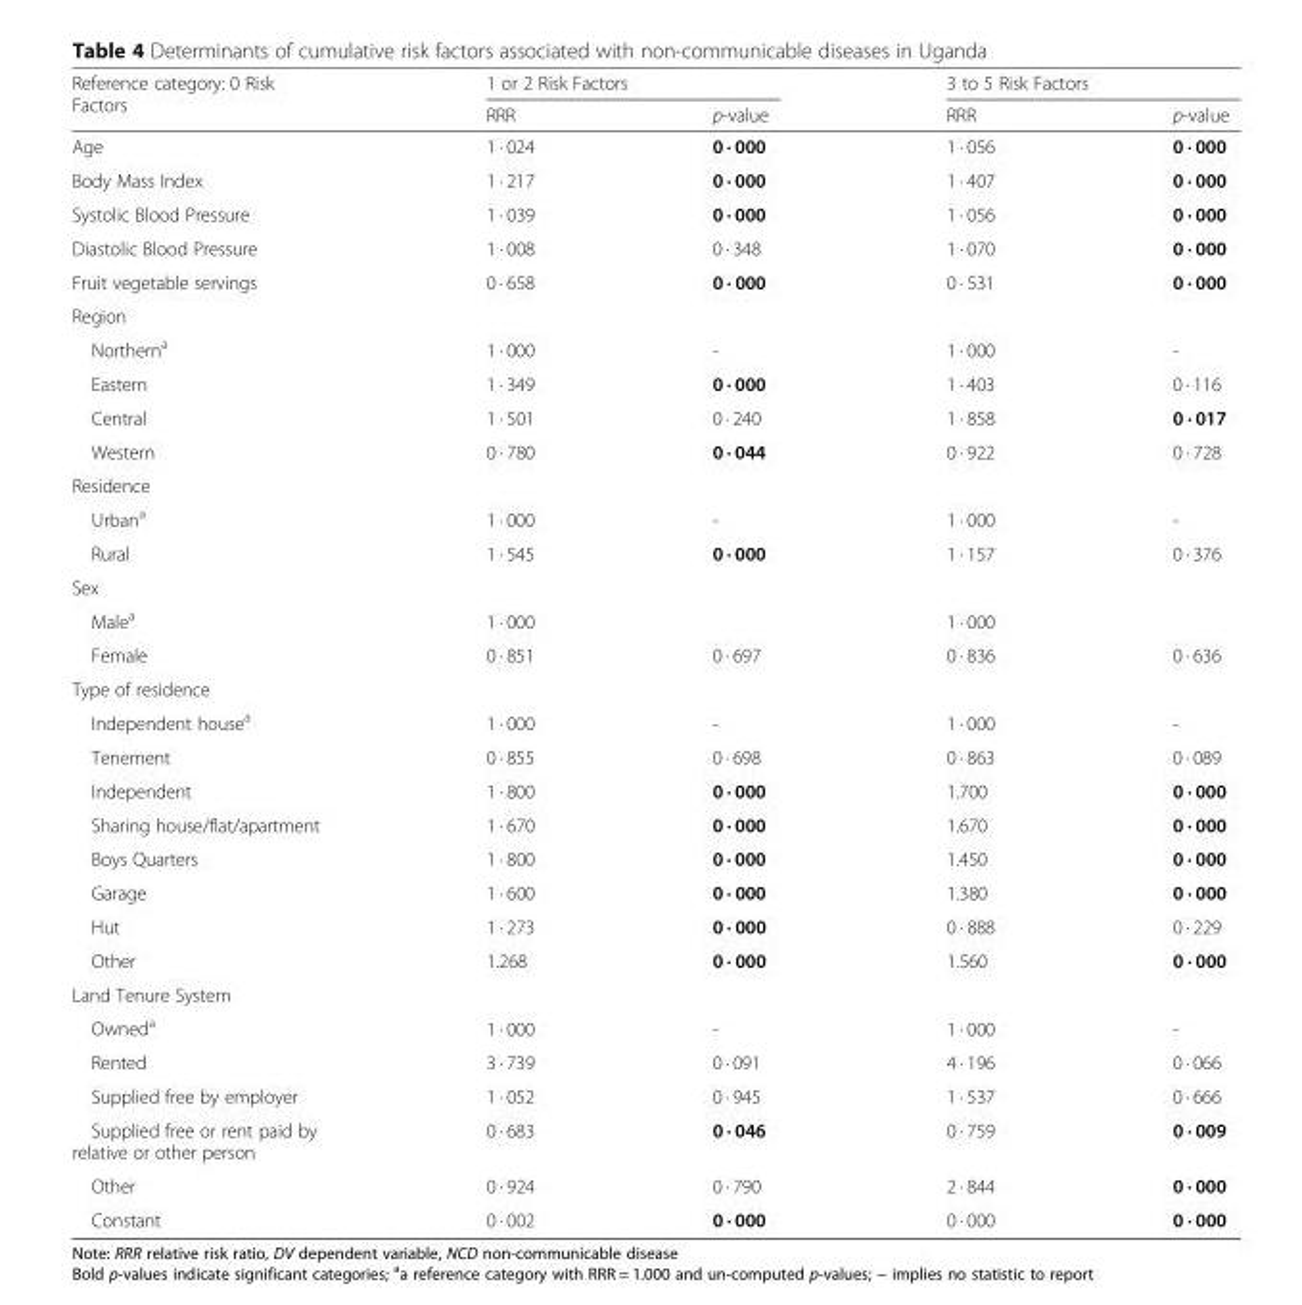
<table><thead><tr><td rowspan="2">Reference category: 0 Risk Factors</td><td colspan="2">1 or 2 Risk Factors</td><td colspan="2">3 to 5 Risk Factors</td></tr><tr><td>RRR</td><td>p-value</td><td>RRR</td><td>p-value</td></tr></thead><tbody><tr><td>Age</td><td>1 · 024</td><td>0 · 000</td><td>1 · 056</td><td>0 · 000</td></tr><tr><td>Body Mass Index</td><td>1 · 217</td><td>0 · 000</td><td>1 · 407</td><td>0 · 000</td></tr><tr><td>Systolic Blood Pressure</td><td>1 · 039</td><td>0 · 000</td><td>1 · 056</td><td>0 · 000</td></tr><tr><td>Diastolic Blood Pressure</td><td>1 · 008</td><td>0 · 348</td><td>1 · 070</td><td>0 · 000</td></tr><tr><td>Fruit vegetable servings</td><td>0 · 658</td><td>0 · 000</td><td>0 · 531</td><td>0 · 000</td></tr><tr><td colspan="5">Region</td></tr><tr><td>Northern<sup>a</sup></td><td>1 · 000</td><td>-</td><td>1 · 000</td><td>-</td></tr><tr><td>Eastern</td><td>1 · 349</td><td>0 · 000</td><td>1 · 403</td><td>0 · 116</td></tr><tr><td>Central</td><td>1 · 501</td><td>0 · 240</td><td>1 · 858</td><td>0 · 017</td></tr><tr><td>Western</td><td>0 · 780</td><td>0 · 044</td><td>0 · 922</td><td>0 · 728</td></tr><tr><td colspan="5">Residence</td></tr><tr><td>Urban<sup>a</sup></td><td>1 · 000</td><td>-</td><td>1 · 000</td><td>-</td></tr><tr><td>Rural</td><td>1 · 545</td><td>0 · 000</td><td>1 · 157</td><td>0 · 376</td></tr><tr><td colspan="5">Sex</td></tr><tr><td>Male<sup>a</sup></td><td>1 · 000</td><td></td><td>1 · 000</td><td></td></tr><tr><td>Female</td><td>0 · 851</td><td>0 · 697</td><td>0 · 836</td><td>0 · 636</td></tr><tr><td colspan="5">Type of residence</td></tr><tr><td>Independent house<sup>a</sup></td><td>1 · 000</td><td>-</td><td>1 · 000</td><td>-</td></tr><tr><td>Tenement</td><td>0 · 855</td><td>0 · 698</td><td>0 · 863</td><td>0 · 089</td></tr><tr><td>Independent</td><td>1 · 800</td><td>0 · 000</td><td>1.700</td><td>0 · 000</td></tr><tr><td>Sharing house/flat/apartment</td><td>1 · 670</td><td>0 · 000</td><td>1.670</td><td>0 · 000</td></tr><tr><td>Boys Quarters</td><td>1 · 800</td><td>0 · 000</td><td>1.450</td><td>0 · 000</td></tr><tr><td>Garage</td><td>1 · 600</td><td>0 · 000</td><td>1.380</td><td>0 · 000</td></tr><tr><td>Hut</td><td>1 · 273</td><td>0 · 000</td><td>0 · 888</td><td>0 · 229</td></tr><tr><td>Other</td><td>1.268</td><td>0 · 000</td><td>1.560</td><td>0 · 000</td></tr><tr><td colspan="5">Land Tenure System</td></tr><tr><td>Owned<sup>a</sup></td><td>1 · 000</td><td>-</td><td>1 · 000</td><td>-</td></tr><tr><td>Rented</td><td>3 · 739</td><td>0 · 091</td><td>4 · 196</td><td>0 · 066</td></tr><tr><td>Supplied free by employer</td><td>1 · 052</td><td>0 · 945</td><td>1 · 537</td><td>0 · 666</td></tr><tr><td>Supplied free or rent paid by relative or other person</td><td>0 · 683</td><td>0 · 046</td><td>0 · 759</td><td>0 · 009</td></tr><tr><td>Other</td><td>0 · 924</td><td>0 · 790</td><td>2 · 844</td><td>0 · 000</td></tr><tr><td>Constant</td><td>0 · 002</td><td>0 · 000</td><td>0 · 000</td><td>0 · 000</td></tr></tbody></table>